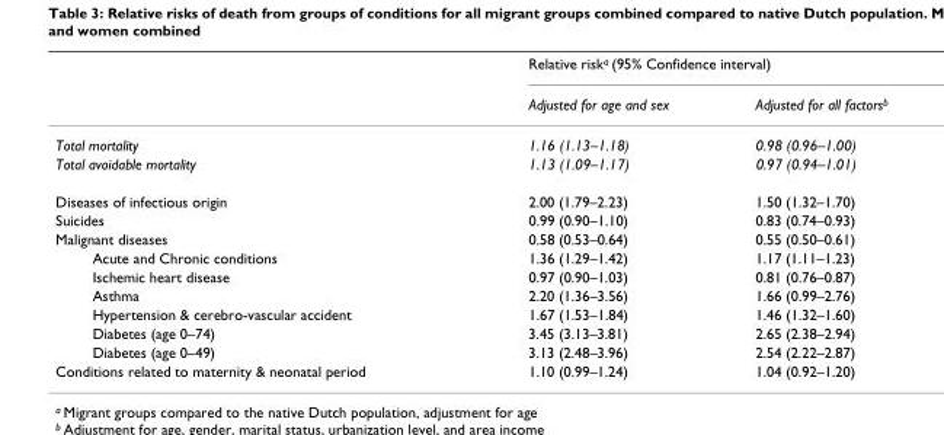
<table><thead><tr><td rowspan="2"></td><td colspan="2">Relative riska (95% Confidence interval)</td></tr><tr><td>Adjusted for age and sex</td><td>Adjusted for all factorsb</td></tr></thead><tbody><tr><td>Total mortality</td><td>1.16 (1.13–1.18)</td><td>0.98 (0.96–1.00)</td></tr><tr><td>Total avoidable mortality</td><td>1.13 (1.09–1.17)</td><td>0.97 (0.94–1.01)</td></tr><tr><td>Diseases of infectious origin</td><td>2.00 (1.79–2.23)</td><td>1.50 (1.32–1.70)</td></tr><tr><td>Suicides</td><td>0.99 (0.90–1.10)</td><td>0.83 (0.74–0.93)</td></tr><tr><td>Malignant diseases</td><td>0.58 (0.53–0.64)</td><td>0.55 (0.50–0.61)</td></tr><tr><td>Acute and Chronic conditions</td><td>1.36 (1.29–1.42)</td><td>1.17 (1.11–1.23)</td></tr><tr><td>Ischemic heart disease</td><td>0.97 (0.90–1.03)</td><td>0.81 (0.76–0.87)</td></tr><tr><td>Asthma</td><td>2.20 (1.36–3.56)</td><td>1.66 (0.99–2.76)</td></tr><tr><td>Hypertension &amp; cerebro-vascular accident</td><td>1.67 (1.53–1.84)</td><td>1.46 (1.32–1.60)</td></tr><tr><td>Diabetes (age 0–74)</td><td>3.45 (3.13–3.81)</td><td>2.65 (2.38–2.94)</td></tr><tr><td>Diabetes (age 0–49)</td><td>3.13 (2.48–3.96)</td><td>2.54 (2.22–2.87)</td></tr><tr><td>Conditions related to maternity &amp; neonatal period</td><td>1.10 (0.99–1.24)</td><td>1.04 (0.92–1.20)</td></tr></tbody></table>